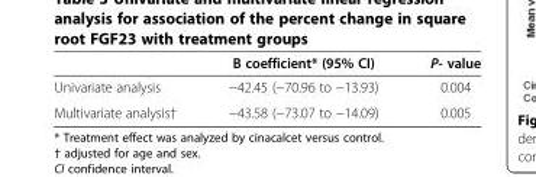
<table><thead><tr><td></td><td>B coefficient* (95% CI)</td><td>P- value</td></tr></thead><tbody><tr><td>Univariate analysis</td><td>−42.45 (−70.96 to −13.93)</td><td>0.004</td></tr><tr><td>Multivariate analysis†</td><td>−43.58 (−73.07 to −14.09)</td><td>0.005</td></tr></tbody></table>